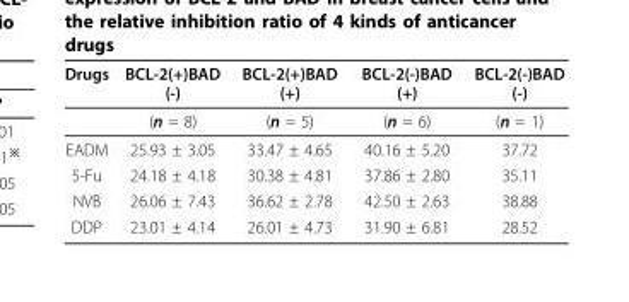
<table><thead><tr><td>Drugs</td><td>BCL-2(+)BAD (-)</td><td>BCL-2(+)BAD (+)</td><td>BCL-2(-)BAD (+)</td><td>BCL-2(-)BAD (-)</td></tr></thead><tbody><tr><td></td><td>(n = 8)</td><td>(n = 5)</td><td>(n = 6)</td><td>(n = 1)</td></tr><tr><td>EADM</td><td>25.93 ± 3.05</td><td>33.47 ± 4.65</td><td>40.16 ± 5.20</td><td>37.72</td></tr><tr><td>5-Fu</td><td>24.18 ± 4.18</td><td>30.38 ± 4.81</td><td>37.86 ± 2.80</td><td>35.11</td></tr><tr><td>NVB</td><td>26.06 ± 7.43</td><td>36.62 ± 2.78</td><td>42.50 ± 2.63</td><td>38.88</td></tr><tr><td>DDP</td><td>23.01 ± 4.14</td><td>26.01 ± 4.73</td><td>31.90 ± 6.81</td><td>28.52</td></tr></tbody></table>